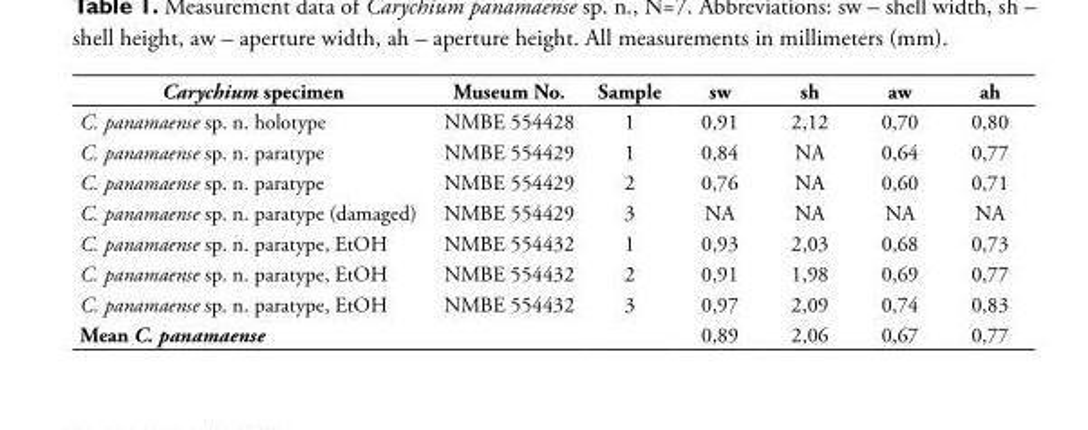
<table><tbody><tr><td>Carychium specimen</td><td>Museum No.</td><td>Sample</td><td>sw</td><td>sh</td><td>aw</td><td>ah</td></tr><tr><td>C. panamaense sp. n. holotype</td><td>NMBE 554428</td><td>1</td><td>0,91</td><td>2,12</td><td>0,70</td><td>0,80</td></tr><tr><td>C. panamaense sp. n. paratype</td><td>NMBE 554429</td><td>1</td><td>0,84</td><td>NA</td><td>0,64</td><td>0,77</td></tr><tr><td>C. panamaense sp. n. paratype</td><td>NMBE 554429</td><td>2</td><td>0,76</td><td>NA</td><td>0,60</td><td>0,71</td></tr><tr><td>C. panamaense sp. n. paratype (damaged)</td><td>NMBE 554429</td><td>3</td><td>NA</td><td>NA</td><td>NA</td><td>NA</td></tr><tr><td>C. panamaense sp. n. paratype, EtOH</td><td>NMBE 554432</td><td>1</td><td>0,93</td><td>2,03</td><td>0,68</td><td>0,73</td></tr><tr><td>C. panamaense sp. n. paratype, EtOH</td><td>NMBE 554432</td><td>2</td><td>0,91</td><td>1,98</td><td>0,69</td><td>0,77</td></tr><tr><td>C. panamaense sp. n. paratype, EtOH</td><td>NMBE 554432</td><td>3</td><td>0,97</td><td>2,09</td><td>0,74</td><td>0,83</td></tr><tr><td>Mean C. panamaense</td><td></td><td></td><td>0,89</td><td>2,06</td><td>0,67</td><td>0,77</td></tr></tbody></table>